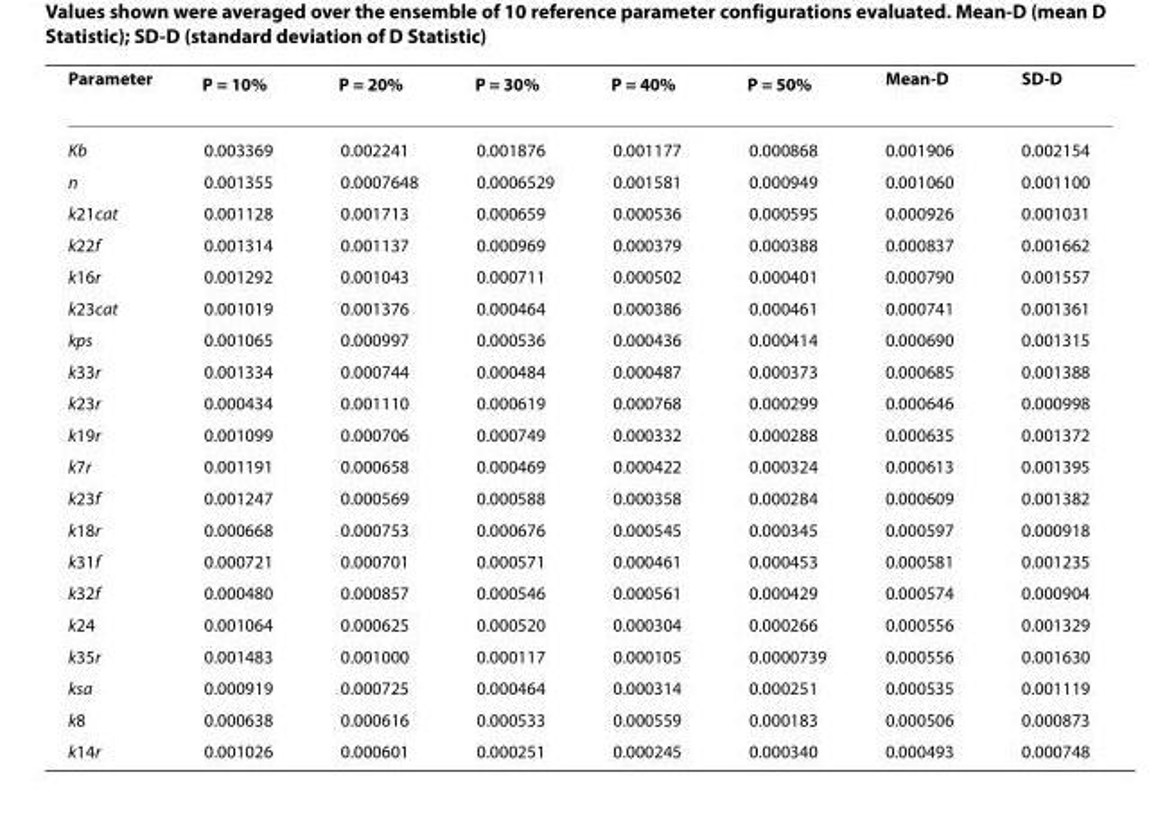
<table><thead><tr><td>Parameter</td><td>P = 10%</td><td>P = 20%</td><td>P = 30%</td><td>P = 40%</td><td>P = 50%</td><td>Mean-D</td><td>SD-D</td></tr></thead><tbody><tr><td>Kb</td><td>0.003369</td><td>0.002241</td><td>0.001876</td><td>0.001177</td><td>0.000868</td><td>0.001906</td><td>0.002154</td></tr><tr><td>n</td><td>0.001355</td><td>0.0007648</td><td>0.0006529</td><td>0.001581</td><td>0.000949</td><td>0.001060</td><td>0.001100</td></tr><tr><td>k21cat</td><td>0.001128</td><td>0.001713</td><td>0.000659</td><td>0.000536</td><td>0.000595</td><td>0.000926</td><td>0.001031</td></tr><tr><td>k22f</td><td>0.001314</td><td>0.001137</td><td>0.000969</td><td>0.000379</td><td>0.000388</td><td>0.000837</td><td>0.001662</td></tr><tr><td>k16r</td><td>0.001292</td><td>0.001043</td><td>0.000711</td><td>0.000502</td><td>0.000401</td><td>0.000790</td><td>0.001557</td></tr><tr><td>k23cat</td><td>0.001019</td><td>0.001376</td><td>0.000464</td><td>0.000386</td><td>0.000461</td><td>0.000741</td><td>0.001361</td></tr><tr><td>kps</td><td>0.001065</td><td>0.000997</td><td>0.000536</td><td>0.000436</td><td>0.000414</td><td>0.000690</td><td>0.001315</td></tr><tr><td>k33r</td><td>0.001334</td><td>0.000744</td><td>0.000484</td><td>0.000487</td><td>0.000373</td><td>0.000685</td><td>0.001388</td></tr><tr><td>k23r</td><td>0.000434</td><td>0.001110</td><td>0.000619</td><td>0.000768</td><td>0.000299</td><td>0.000646</td><td>0.000998</td></tr><tr><td>k19r</td><td>0.001099</td><td>0.000706</td><td>0.000749</td><td>0.000332</td><td>0.000288</td><td>0.000635</td><td>0.001372</td></tr><tr><td>k7r</td><td>0.001191</td><td>0.000658</td><td>0.000469</td><td>0.000422</td><td>0.000324</td><td>0.000613</td><td>0.001395</td></tr><tr><td>k23f</td><td>0.001247</td><td>0.000569</td><td>0.000588</td><td>0.000358</td><td>0.000284</td><td>0.000609</td><td>0.001382</td></tr><tr><td>k18r</td><td>0.000668</td><td>0.000753</td><td>0.000676</td><td>0.000545</td><td>0.000345</td><td>0.000597</td><td>0.000918</td></tr><tr><td>k31f</td><td>0.000721</td><td>0.000701</td><td>0.000571</td><td>0.000461</td><td>0.000453</td><td>0.000581</td><td>0.001235</td></tr><tr><td>k32f</td><td>0.000480</td><td>0.000857</td><td>0.000546</td><td>0.000561</td><td>0.000429</td><td>0.000574</td><td>0.000904</td></tr><tr><td>k24</td><td>0.001064</td><td>0.000625</td><td>0.000520</td><td>0.000304</td><td>0.000266</td><td>0.000556</td><td>0.001329</td></tr><tr><td>k35r</td><td>0.001483</td><td>0.001000</td><td>0.000117</td><td>0.000105</td><td>0.0000739</td><td>0.000556</td><td>0.001630</td></tr><tr><td>ksa</td><td>0.000919</td><td>0.000725</td><td>0.000464</td><td>0.000314</td><td>0.000251</td><td>0.000535</td><td>0.001119</td></tr><tr><td>k8</td><td>0.000638</td><td>0.000616</td><td>0.000533</td><td>0.000559</td><td>0.000183</td><td>0.000506</td><td>0.000873</td></tr><tr><td>k14r</td><td>0.001026</td><td>0.000601</td><td>0.000251</td><td>0.000245</td><td>0.000340</td><td>0.000493</td><td>0.000748</td></tr></tbody></table>